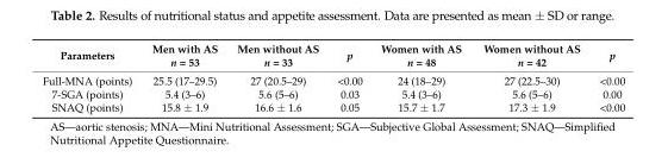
<table><thead><tr><td>Parameters</td><td>Men with AS n = 53</td><td>Men without AS n = 33</td><td>p</td><td>Women with AS n = 48</td><td>Women without AS n = 42</td><td>p</td></tr></thead><tbody><tr><td>Full-MNA (points)</td><td>25.5 (17–29.5)</td><td>27 (20.5–29)</td><td>&lt;0.00</td><td>24 (18–29)</td><td>27 (22.5–30)</td><td>&lt;0.00</td></tr><tr><td>7-SGA (points)</td><td>5.4 (3–6)</td><td>5.6 (5–6)</td><td>0.03</td><td>5.4 (3–6)</td><td>5.6 (5–6)</td><td>0.00</td></tr><tr><td>SNAQ (points)</td><td>15.8 ± 1.9</td><td>16.6 ± 1.6</td><td>0.05</td><td>15.7 ± 1.7</td><td>17.3 ± 1.9</td><td>&lt;0.00</td></tr></tbody></table>